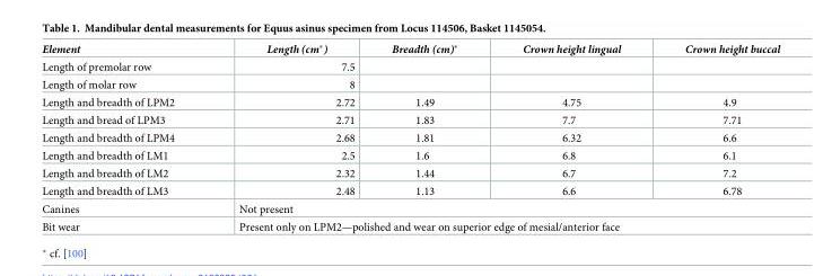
<table><thead><tr><td>Element</td><td>Length (cm*)</td><td>Breadth (cm)*</td><td>Crown height lingual</td><td>Crown height buccal</td></tr></thead><tbody><tr><td>Length of premolar row</td><td>7.5</td><td></td><td></td><td></td></tr><tr><td>Length of molar row</td><td>8</td><td></td><td></td><td></td></tr><tr><td>Length and breadth of LPM2</td><td>2.72</td><td>1.49</td><td>4.75</td><td>4.9</td></tr><tr><td>Length and bread of LPM3</td><td>2.71</td><td>1.83</td><td>7.7</td><td>7.71</td></tr><tr><td>Length and breadth of LPM4</td><td>2.68</td><td>1.81</td><td>6.32</td><td>6.6</td></tr><tr><td>Length and breadth of LM1</td><td>2.5</td><td>1.6</td><td>6.8</td><td>6.1</td></tr><tr><td>Length and breadth of LM2</td><td>2.32</td><td>1.44</td><td>6.7</td><td>7.2</td></tr><tr><td>Length and breadth of LM3</td><td>2.48</td><td>1.13</td><td>6.6</td><td>6.78</td></tr><tr><td>Canines</td><td colspan="4">Not present</td></tr><tr><td>Bit wear</td><td colspan="4">Present only on LPM2—polished and wear on superior edge of mesial/anterior face</td></tr></tbody></table>